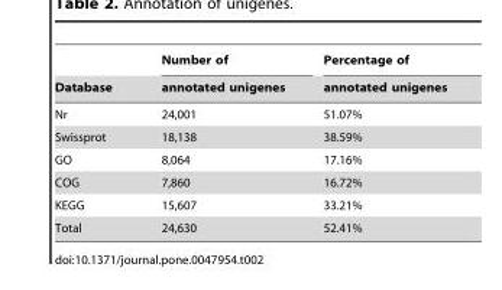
<table><thead><tr><td rowspan="2">Database</td><td rowspan="2">Number of annotated unigenes</td><td rowspan="2">Percentage of annotated unigenes</td></tr><tr></tr></thead><tbody><tr><td>Nr</td><td>24,001</td><td>51.07%</td></tr><tr><td>Swissprot</td><td>18,138</td><td>38.59%</td></tr><tr><td>GO</td><td>8,064</td><td>17.16%</td></tr><tr><td>COG</td><td>7,860</td><td>16.72%</td></tr><tr><td>KEGG</td><td>15,607</td><td>33.21%</td></tr><tr><td>Total</td><td>24,630</td><td>52.41%</td></tr></tbody></table>